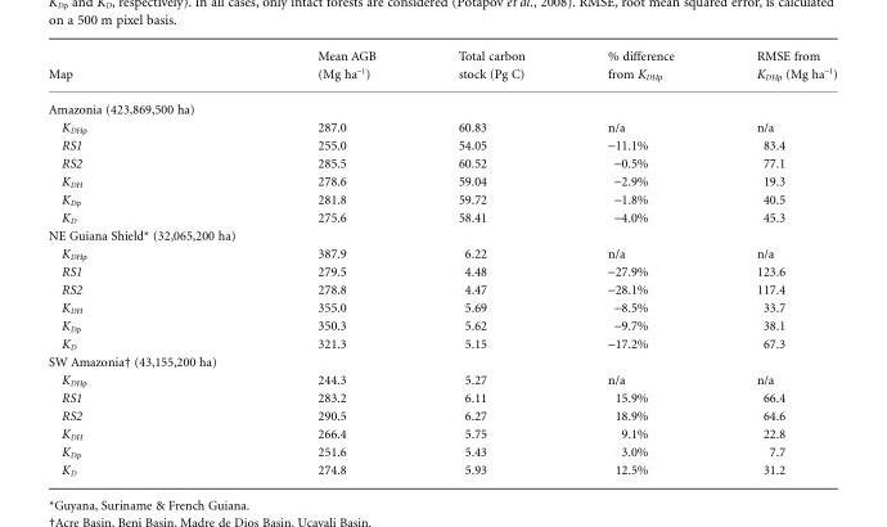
<table><thead><tr><td>Map</td><td>Mean AGB (Mg ha<sup>−1</sup>)</td><td>Total carbon stock (Pg C)</td><td>% difference from K<sub>DHρ</sub></td><td>RMSE from K<sub>DHρ</sub> (Mg ha<sup>−1</sup>)</td></tr></thead><tbody><tr><td colspan="5">Amazonia (423,869,500 ha)</td></tr><tr><td>K<sub>DHρ</sub></td><td>287.0</td><td>60.83</td><td>n/a</td><td>n/a</td></tr><tr><td>RS1</td><td>255.0</td><td>54.05</td><td>−11.1%</td><td>83.4</td></tr><tr><td>RS2</td><td>285.5</td><td>60.52</td><td>−0.5%</td><td>77.1</td></tr><tr><td>K<sub>DH</sub></td><td>278.6</td><td>59.04</td><td>−2.9%</td><td>19.3</td></tr><tr><td>K<sub>Dρ</sub></td><td>281.8</td><td>59.72</td><td>−1.8%</td><td>40.5</td></tr><tr><td>K<sub>D</sub></td><td>275.6</td><td>58.41</td><td>−4.0%</td><td>45.3</td></tr><tr><td colspan="5">NE Guiana Shield* (32,065,200 ha)</td></tr><tr><td>K<sub>DHρ</sub></td><td>387.9</td><td>6.22</td><td>n/a</td><td>n/a</td></tr><tr><td>RS1</td><td>279.5</td><td>4.48</td><td>−27.9%</td><td>123.6</td></tr><tr><td>RS2</td><td>278.8</td><td>4.47</td><td>−28.1%</td><td>117.4</td></tr><tr><td>K<sub>DH</sub></td><td>355.0</td><td>5.69</td><td>−8.5%</td><td>33.7</td></tr><tr><td>K<sub>Dρ</sub></td><td>350.3</td><td>5.62</td><td>−9.7%</td><td>38.1</td></tr><tr><td>K<sub>D</sub></td><td>321.3</td><td>5.15</td><td>−17.2%</td><td>67.3</td></tr><tr><td colspan="5">SW Amazonia† (43,155,200 ha)</td></tr><tr><td>K<sub>DHρ</sub></td><td>244.3</td><td>5.27</td><td>n/a</td><td>n/a</td></tr><tr><td>RS1</td><td>283.2</td><td>6.11</td><td>15.9%</td><td>66.4</td></tr><tr><td>RS2</td><td>290.5</td><td>6.27</td><td>18.9%</td><td>64.6</td></tr><tr><td>K<sub>DH</sub></td><td>266.4</td><td>5.75</td><td>9.1%</td><td>22.8</td></tr><tr><td>K<sub>Dρ</sub></td><td>251.6</td><td>5.43</td><td>3.0%</td><td>7.7</td></tr><tr><td>K<sub>D</sub></td><td>274.8</td><td>5.93</td><td>12.5%</td><td>31.2</td></tr></tbody></table>